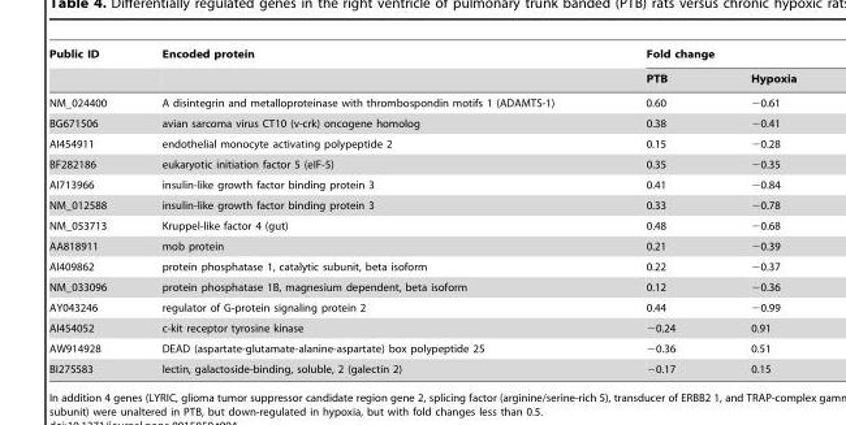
<table><thead><tr><td rowspan="2">Public ID</td><td rowspan="2">Encoded protein</td><td colspan="2">Fold change</td></tr><tr><td>PTB</td><td>Hypoxia</td></tr></thead><tbody><tr><td>NM_024400</td><td>A disintegrin and metalloproteinase with thrombospondin motifs 1 (ADAMTS-1)</td><td>0.60</td><td>−0.61</td></tr><tr><td>BG671506</td><td>avian sarcoma virus CT10 (v-crk) oncogene homolog</td><td>0.38</td><td>−0.41</td></tr><tr><td>AI454911</td><td>endothelial monocyte activating polypeptide 2</td><td>0.15</td><td>−0.28</td></tr><tr><td>BF282186</td><td>eukaryotic initiation factor 5 (eIF-5)</td><td>0.35</td><td>−0.35</td></tr><tr><td>AI713966</td><td>insulin-like growth factor binding protein 3</td><td>0.41</td><td>−0.84</td></tr><tr><td>NM_012588</td><td>insulin-like growth factor binding protein 3</td><td>0.33</td><td>−0.78</td></tr><tr><td>NM_053713</td><td>Kruppel-like factor 4 (gut)</td><td>0.48</td><td>−0.68</td></tr><tr><td>AA818911</td><td>mob protein</td><td>0.21</td><td>−0.39</td></tr><tr><td>AI409862</td><td>protein phosphatase 1, catalytic subunit, beta isoform</td><td>0.22</td><td>−0.37</td></tr><tr><td>NM_033096</td><td>protein phosphatase 1B, magnesium dependent, beta isoform</td><td>0.12</td><td>−0.36</td></tr><tr><td>AY043246</td><td>regulator of G-protein signaling protein 2</td><td>0.44</td><td>−0.99</td></tr><tr><td>AI454052</td><td>c-kit receptor tyrosine kinase</td><td>−0.24</td><td>0.91</td></tr><tr><td>AW914928</td><td>DEAD (aspartate-glutamate-alanine-aspartate) box polypeptide 25</td><td>−0.36</td><td>0.51</td></tr><tr><td>BI275583</td><td>lectin, galactoside-binding, soluble, 2 (galectin 2)</td><td>−0.17</td><td>0.15</td></tr></tbody></table>